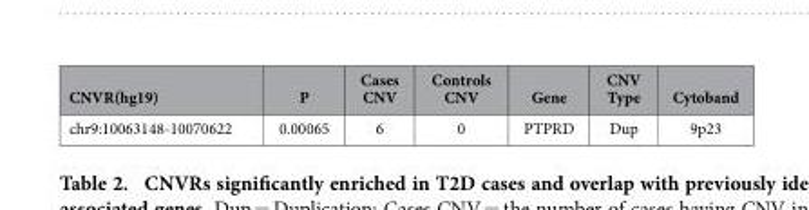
<table><thead><tr><td>CNVR(hg19)</td><td>P</td><td>Cases CNV</td><td>Controls CNV</td><td>Gene</td><td>CNV Type</td><td>Cytoband</td></tr></thead><tbody><tr><td>chr9:10063148-10070622</td><td>0.00065</td><td>6</td><td>0</td><td>PTPRD</td><td>Dup</td><td>9p23</td></tr></tbody></table>